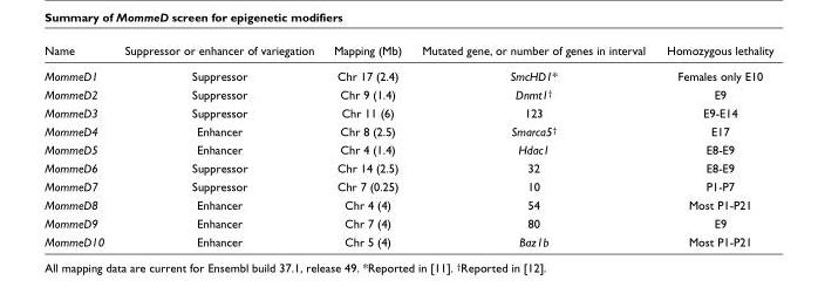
<table><thead><tr><td>Name</td><td>Suppressor or enhancer of variegation</td><td>Mapping (Mb)</td><td>Mutated gene, or number of genes in interval</td><td>Homozygous lethality</td></tr></thead><tbody><tr><td>MommeD1</td><td>Suppressor</td><td>Chr 17 (2.4)</td><td>SmcHD1*</td><td>Females only E10</td></tr><tr><td>MommeD2</td><td>Suppressor</td><td>Chr 9 (1.4)</td><td>Dnmt1<sup>†</sup></td><td>E9</td></tr><tr><td>MommeD3</td><td>Suppressor</td><td>Chr 11 (6)</td><td>123</td><td>E9-E14</td></tr><tr><td>MommeD4</td><td>Enhancer</td><td>Chr 8 (2.5)</td><td>Smarca5<sup>†</sup></td><td>E17</td></tr><tr><td>MommeD5</td><td>Enhancer</td><td>Chr 4 (1.4)</td><td>Hdac1</td><td>E8-E9</td></tr><tr><td>MommeD6</td><td>Suppressor</td><td>Chr 14 (2.5)</td><td>32</td><td>E8-E9</td></tr><tr><td>MommeD7</td><td>Suppressor</td><td>Chr 7 (0.25)</td><td>10</td><td>P1-P7</td></tr><tr><td>MommeD8</td><td>Enhancer</td><td>Chr 4 (4)</td><td>54</td><td>Most P1-P21</td></tr><tr><td>MommeD9</td><td>Enhancer</td><td>Chr 7 (4)</td><td>80</td><td>E9</td></tr><tr><td>MommeD10</td><td>Enhancer</td><td>Chr 5 (4)</td><td>Baz1b</td><td>Most P1-P21</td></tr></tbody></table>